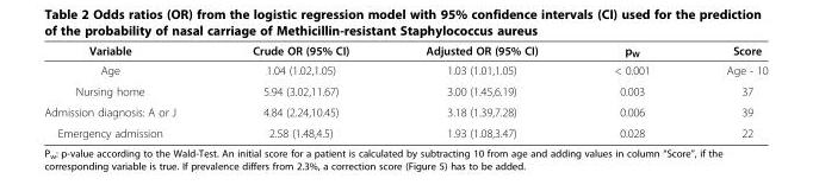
<table><thead><tr><td>Variable</td><td>Crude OR (95% CI)</td><td>Adjusted OR (95% CI)</td><td>p<sub>W</sub></td><td>Score</td></tr></thead><tbody><tr><td>Age</td><td>1.04 (1.02,1.05)</td><td>1.03 (1.01,1.05)</td><td>&lt; 0.001</td><td>Age - 10</td></tr><tr><td>Nursing home</td><td>5.94 (3.02,11.67)</td><td>3.00 (1.45,6.19)</td><td>0.003</td><td>37</td></tr><tr><td>Admission diagnosis: A or J</td><td>4.84 (2.24,10.45)</td><td>3.18 (1.39,7.28)</td><td>0.006</td><td>39</td></tr><tr><td>Emergency admission</td><td>2.58 (1.48,4.5)</td><td>1.93 (1.08,3.47)</td><td>0.028</td><td>22</td></tr></tbody></table>